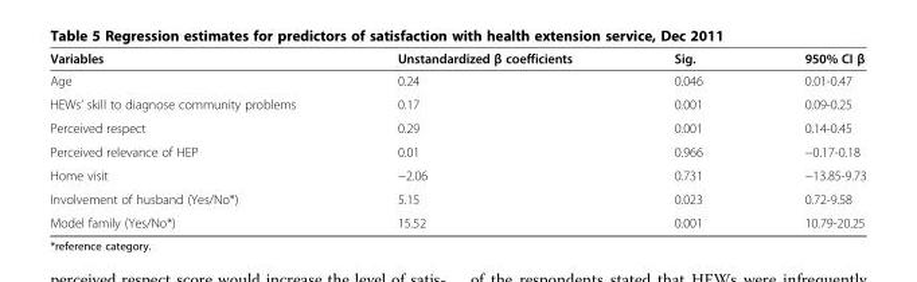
<table><thead><tr><td>Variables</td><td>Unstandardized β coefficients</td><td>Sig.</td><td>950% CI β</td></tr></thead><tbody><tr><td>Age</td><td>0.24</td><td>0.046</td><td>0.01-0.47</td></tr><tr><td>HEWs’ skill to diagnose community problems</td><td>0.17</td><td>0.001</td><td>0.09-0.25</td></tr><tr><td>Perceived respect</td><td>0.29</td><td>0.001</td><td>0.14-0.45</td></tr><tr><td>Perceived relevance of HEP</td><td>0.01</td><td>0.966</td><td>−0.17-0.18</td></tr><tr><td>Home visit</td><td>−2.06</td><td>0.731</td><td>−13.85-9.73</td></tr><tr><td>Involvement of husband (Yes/No*)</td><td>5.15</td><td>0.023</td><td>0.72-9.58</td></tr><tr><td>Model family (Yes/No*)</td><td>15.52</td><td>0.001</td><td>10.79-20.25</td></tr></tbody></table>